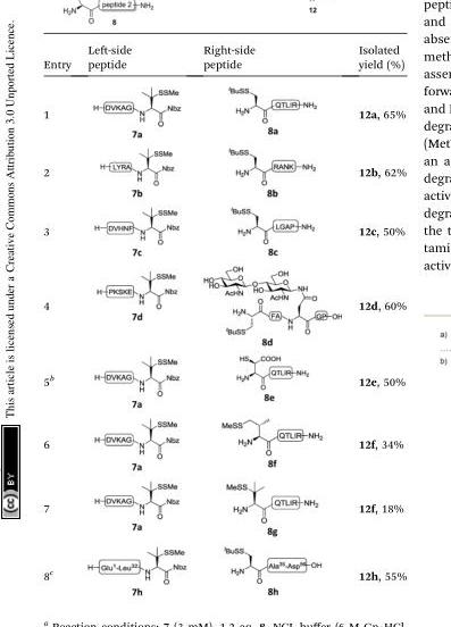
<table><thead><tr><td>Entry</td><td>Le-side peptide</td><td>Right-side peptide</td><td>Isolated yield (%)</td></tr></thead><tbody><tr><td>1</td><td></td><td></td><td>12a, 65%</td></tr><tr><td>2</td><td></td><td></td><td>12b, 62%</td></tr><tr><td>3</td><td></td><td></td><td>12c, 50%</td></tr><tr><td>4</td><td></td><td></td><td>12d, 60%</td></tr><tr><td>5<sup>b</sup></td><td></td><td></td><td>12e, 50%</td></tr><tr><td>6</td><td></td><td></td><td>12f, 34%</td></tr><tr><td>7</td><td></td><td></td><td>12f, 18%</td></tr><tr><td>8<sup>c</sup></td><td></td><td></td><td>12h, 55%</td></tr></tbody></table>